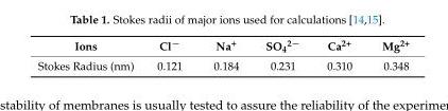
<table><thead><tr><td>Ions</td><td>Cl<sup>−</sup></td><td>Na<sup>+</sup></td><td>SO<sub>4</sub><sup>2−</sup></td><td>Ca<sup>2+</sup></td><td>Mg<sup>2+</sup></td></tr></thead><tbody><tr><td>Stokes Radius (nm)</td><td>0.121</td><td>0.184</td><td>0.231</td><td>0.310</td><td>0.348</td></tr></tbody></table>